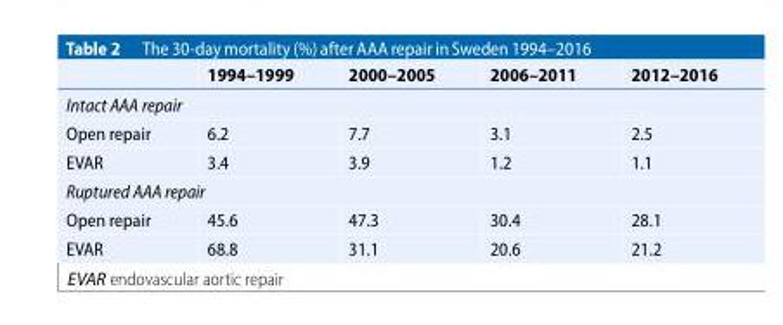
<table><thead><tr><td></td><td>1994–1999</td><td>2000–2005</td><td>2006–2011</td><td>2012–2016</td></tr></thead><tbody><tr><td colspan="5">Intact AAA repair</td></tr><tr><td>Open repair</td><td>6.2</td><td>7.7</td><td>3.1</td><td>2.5</td></tr><tr><td>EVAR</td><td>3.4</td><td>3.9</td><td>1.2</td><td>1.1</td></tr><tr><td colspan="5">Ruptured AAA repair</td></tr><tr><td>Open repair</td><td>45.6</td><td>47.3</td><td>30.4</td><td>28.1</td></tr><tr><td>EVAR</td><td>68.8</td><td>31.1</td><td>20.6</td><td>21.2</td></tr></tbody></table>